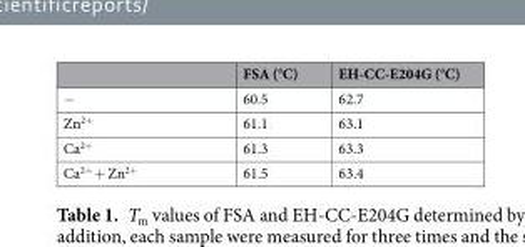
<table><thead><tr><td></td><td>FSA (°C)</td><td>EH-CC-E204G (°C)</td></tr></thead><tbody><tr><td>−</td><td>60.5</td><td>62.7</td></tr><tr><td>Zn<sup>2+</sup></td><td>61.1</td><td>63.1</td></tr><tr><td>Ca<sup>2+</sup></td><td>61.3</td><td>63.3</td></tr><tr><td>Ca<sup>2+</sup> + Zn<sup>2+</sup></td><td>61.5</td><td>63.4</td></tr></tbody></table>